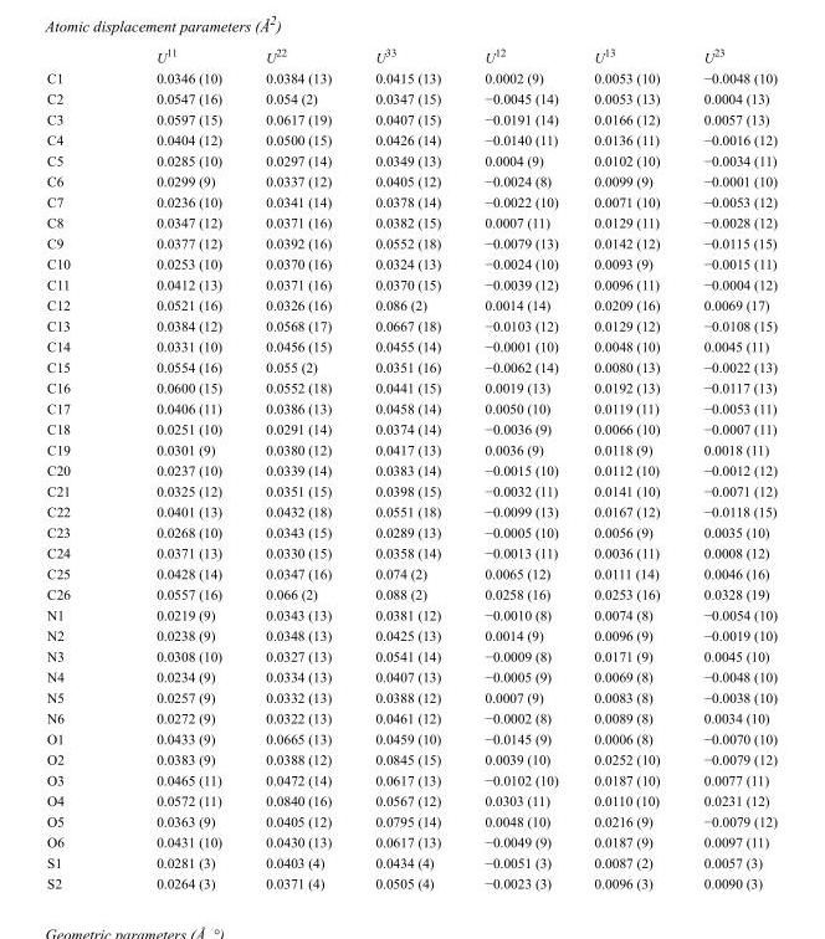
<table><thead><tr><td></td><td>U<sup>11</sup></td><td>U<sup>22</sup></td><td>U<sup>33</sup></td><td>U<sup>12</sup></td><td>U<sup>13</sup></td><td>U<sup>23</sup></td></tr></thead><tbody><tr><td>C1</td><td>0.0346 (10)</td><td>0.0384 (13)</td><td>0.0415 (13)</td><td>0.0002 (9)</td><td>0.0053 (10)</td><td>−0.0048 (10)</td></tr><tr><td>C2</td><td>0.0547 (16)</td><td>0.054 (2)</td><td>0.0347 (15)</td><td>−0.0045 (14)</td><td>0.0053 (13)</td><td>0.0004 (13)</td></tr><tr><td>C3</td><td>0.0597 (15)</td><td>0.0617 (19)</td><td>0.0407 (15)</td><td>−0.0191 (14)</td><td>0.0166 (12)</td><td>0.0057 (13)</td></tr><tr><td>C4</td><td>0.0404 (12)</td><td>0.0500 (15)</td><td>0.0426 (14)</td><td>−0.0140 (11)</td><td>0.0136 (11)</td><td>−0.0016 (12)</td></tr><tr><td>C5</td><td>0.0285 (10)</td><td>0.0297 (14)</td><td>0.0349 (13)</td><td>0.0004 (9)</td><td>0.0102 (10)</td><td>−0.0034 (11)</td></tr><tr><td>C6</td><td>0.0299 (9)</td><td>0.0337 (12)</td><td>0.0405 (12)</td><td>−0.0024 (8)</td><td>0.0099 (9)</td><td>−0.0001 (10)</td></tr><tr><td>C7</td><td>0.0236 (10)</td><td>0.0341 (14)</td><td>0.0378 (14)</td><td>−0.0022 (10)</td><td>0.0071 (10)</td><td>−0.0053 (12)</td></tr><tr><td>C8</td><td>0.0347 (12)</td><td>0.0371 (16)</td><td>0.0382 (15)</td><td>0.0007 (11)</td><td>0.0129 (11)</td><td>−0.0028 (12)</td></tr><tr><td>C9</td><td>0.0377 (12)</td><td>0.0392 (16)</td><td>0.0552 (18)</td><td>−0.0079 (13)</td><td>0.0142 (12)</td><td>−0.0115 (15)</td></tr><tr><td>C10</td><td>0.0253 (10)</td><td>0.0370 (16)</td><td>0.0324 (13)</td><td>−0.0024 (10)</td><td>0.0093 (9)</td><td>−0.0015 (11)</td></tr><tr><td>C11</td><td>0.0412 (13)</td><td>0.0371 (16)</td><td>0.0370 (15)</td><td>−0.0039 (12)</td><td>0.0096 (11)</td><td>−0.0004 (12)</td></tr><tr><td>C12</td><td>0.0521 (16)</td><td>0.0326 (16)</td><td>0.086 (2)</td><td>0.0014 (14)</td><td>0.0209 (16)</td><td>0.0069 (17)</td></tr><tr><td>C13</td><td>0.0384 (12)</td><td>0.0568 (17)</td><td>0.0667 (18)</td><td>−0.0103 (12)</td><td>0.0129 (12)</td><td>−0.0108 (15)</td></tr><tr><td>C14</td><td>0.0331 (10)</td><td>0.0456 (15)</td><td>0.0455 (14)</td><td>−0.0001 (10)</td><td>0.0048 (10)</td><td>0.0045 (11)</td></tr><tr><td>C15</td><td>0.0554 (16)</td><td>0.055 (2)</td><td>0.0351 (16)</td><td>−0.0062 (14)</td><td>0.0080 (13)</td><td>−0.0022 (13)</td></tr><tr><td>C16</td><td>0.0600 (15)</td><td>0.0552 (18)</td><td>0.0441 (15)</td><td>0.0019 (13)</td><td>0.0192 (13)</td><td>−0.0117 (13)</td></tr><tr><td>C17</td><td>0.0406 (11)</td><td>0.0386 (13)</td><td>0.0458 (14)</td><td>0.0050 (10)</td><td>0.0119 (11)</td><td>−0.0053 (11)</td></tr><tr><td>C18</td><td>0.0251 (10)</td><td>0.0291 (14)</td><td>0.0374 (14)</td><td>−0.0036 (9)</td><td>0.0066 (10)</td><td>−0.0007 (11)</td></tr><tr><td>C19</td><td>0.0301 (9)</td><td>0.0380 (12)</td><td>0.0417 (13)</td><td>0.0036 (9)</td><td>0.0118 (9)</td><td>0.0018 (11)</td></tr><tr><td>C20</td><td>0.0237 (10)</td><td>0.0339 (14)</td><td>0.0383 (14)</td><td>−0.0015 (10)</td><td>0.0112 (10)</td><td>−0.0012 (12)</td></tr><tr><td>C21</td><td>0.0325 (12)</td><td>0.0351 (15)</td><td>0.0398 (15)</td><td>−0.0032 (11)</td><td>0.0141 (10)</td><td>−0.0071 (12)</td></tr><tr><td>C22</td><td>0.0401 (13)</td><td>0.0432 (18)</td><td>0.0551 (18)</td><td>−0.0099 (13)</td><td>0.0167 (12)</td><td>−0.0118 (15)</td></tr><tr><td>C23</td><td>0.0268 (10)</td><td>0.0343 (15)</td><td>0.0289 (13)</td><td>−0.0005 (10)</td><td>0.0056 (9)</td><td>0.0035 (10)</td></tr><tr><td>C24</td><td>0.0371 (13)</td><td>0.0330 (15)</td><td>0.0358 (14)</td><td>−0.0013 (11)</td><td>0.0036 (11)</td><td>0.0008 (12)</td></tr><tr><td>C25</td><td>0.0428 (14)</td><td>0.0347 (16)</td><td>0.074 (2)</td><td>0.0065 (12)</td><td>0.0111 (14)</td><td>0.0046 (16)</td></tr><tr><td>C26</td><td>0.0557 (16)</td><td>0.066 (2)</td><td>0.088 (2)</td><td>0.0258 (16)</td><td>0.0253 (16)</td><td>0.0328 (19)</td></tr><tr><td>N1</td><td>0.0219 (9)</td><td>0.0343 (13)</td><td>0.0381 (12)</td><td>−0.0010 (8)</td><td>0.0074 (8)</td><td>−0.0054 (10)</td></tr><tr><td>N2</td><td>0.0238 (9)</td><td>0.0348 (13)</td><td>0.0425 (13)</td><td>0.0014 (9)</td><td>0.0096 (9)</td><td>−0.0019 (10)</td></tr><tr><td>N3</td><td>0.0308 (10)</td><td>0.0327 (13)</td><td>0.0541 (14)</td><td>−0.0009 (8)</td><td>0.0171 (9)</td><td>0.0045 (10)</td></tr><tr><td>N4</td><td>0.0234 (9)</td><td>0.0334 (13)</td><td>0.0407 (13)</td><td>−0.0005 (9)</td><td>0.0069 (8)</td><td>−0.0048 (10)</td></tr><tr><td>N5</td><td>0.0257 (9)</td><td>0.0332 (13)</td><td>0.0388 (12)</td><td>0.0007 (9)</td><td>0.0083 (8)</td><td>−0.0038 (10)</td></tr><tr><td>N6</td><td>0.0272 (9)</td><td>0.0322 (13)</td><td>0.0461 (12)</td><td>−0.0002 (8)</td><td>0.0089 (8)</td><td>0.0034 (10)</td></tr><tr><td>O1</td><td>0.0433 (9)</td><td>0.0665 (13)</td><td>0.0459 (10)</td><td>−0.0145 (9)</td><td>0.0006 (8)</td><td>−0.0070 (10)</td></tr><tr><td>O2</td><td>0.0383 (9)</td><td>0.0388 (12)</td><td>0.0845 (15)</td><td>0.0039 (10)</td><td>0.0252 (10)</td><td>−0.0079 (12)</td></tr><tr><td>O3</td><td>0.0465 (11)</td><td>0.0472 (14)</td><td>0.0617 (13)</td><td>−0.0102 (10)</td><td>0.0187 (10)</td><td>0.0077 (11)</td></tr><tr><td>O4</td><td>0.0572 (11)</td><td>0.0840 (16)</td><td>0.0567 (12)</td><td>0.0303 (11)</td><td>0.0110 (10)</td><td>0.0231 (12)</td></tr><tr><td>O5</td><td>0.0363 (9)</td><td>0.0405 (12)</td><td>0.0795 (14)</td><td>0.0048 (10)</td><td>0.0216 (9)</td><td>−0.0079 (12)</td></tr><tr><td>O6</td><td>0.0431 (10)</td><td>0.0430 (13)</td><td>0.0617 (13)</td><td>−0.0049 (9)</td><td>0.0187 (9)</td><td>0.0097 (11)</td></tr><tr><td>S1</td><td>0.0281 (3)</td><td>0.0403 (4)</td><td>0.0434 (4)</td><td>−0.0051 (3)</td><td>0.0087 (2)</td><td>0.0057 (3)</td></tr><tr><td>S2</td><td>0.0264 (3)</td><td>0.0371 (4)</td><td>0.0505 (4)</td><td>−0.0023 (3)</td><td>0.0096 (3)</td><td>0.0090 (3)</td></tr></tbody></table>